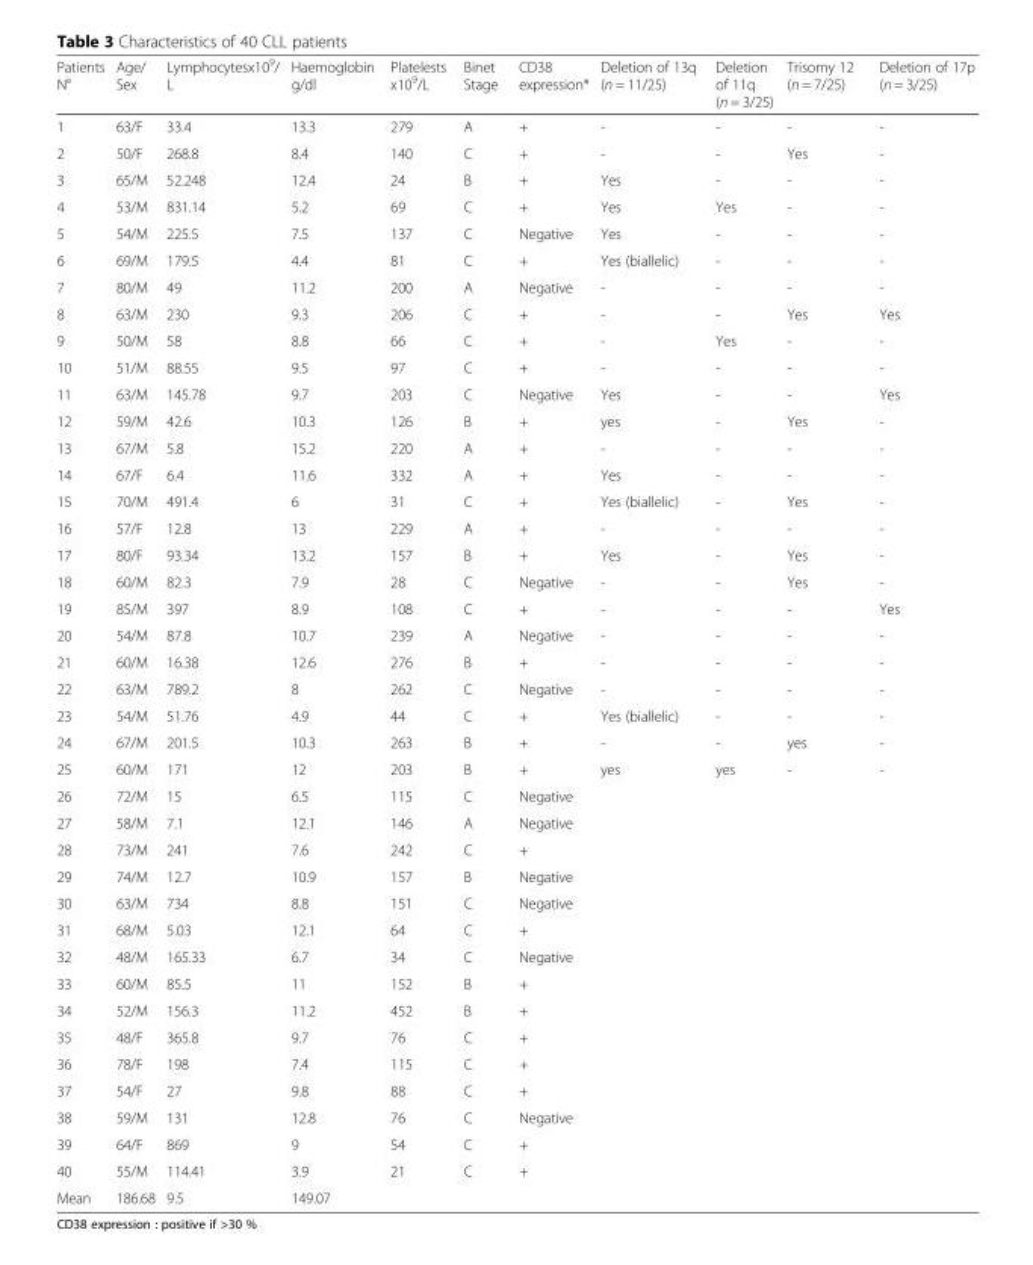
<table><thead><tr><td>Patients N°</td><td>Age/ Sex</td><td>Lymphocytesx10<sup>9</sup>/ L</td><td>Haemoglobin g/dl</td><td>Platelests x10<sup>9</sup>/L</td><td>Binet Stage</td><td>CD38 expression*</td><td>Deletion of 13q (n = 11/25)</td><td>Deletion of 11q (n = 3/25)</td><td>Trisomy 12 (n = 7/25)</td><td>Deletion of 17p (n = 3/25)</td></tr></thead><tbody><tr><td>1</td><td>63/F</td><td>33.4</td><td>13.3</td><td>279</td><td>A</td><td>+</td><td>-</td><td>-</td><td>-</td><td>-</td></tr><tr><td>2</td><td>50/F</td><td>268.8</td><td>8.4</td><td>140</td><td>C</td><td>+</td><td>-</td><td>-</td><td>Yes</td><td>-</td></tr><tr><td>3</td><td>65/M</td><td>52.248</td><td>12.4</td><td>24</td><td>B</td><td>+</td><td>Yes</td><td>-</td><td>-</td><td>-</td></tr><tr><td>4</td><td>53/M</td><td>831.14</td><td>5.2</td><td>69</td><td>C</td><td>+</td><td>Yes</td><td>Yes</td><td>-</td><td>-</td></tr><tr><td>5</td><td>54/M</td><td>225.5</td><td>7.5</td><td>137</td><td>C</td><td>Negative</td><td>Yes</td><td>-</td><td>-</td><td>-</td></tr><tr><td>6</td><td>69/M</td><td>179.5</td><td>4.4</td><td>81</td><td>C</td><td>+</td><td>Yes (biallelic)</td><td>-</td><td>-</td><td>-</td></tr><tr><td>7</td><td>80/M</td><td>49</td><td>11.2</td><td>200</td><td>A</td><td>Negative</td><td>-</td><td>-</td><td>-</td><td>-</td></tr><tr><td>8</td><td>63/M</td><td>230</td><td>9.3</td><td>206</td><td>C</td><td>+</td><td>-</td><td>-</td><td>Yes</td><td>Yes</td></tr><tr><td>9</td><td>50/M</td><td>58</td><td>8.8</td><td>66</td><td>C</td><td>+</td><td>-</td><td>Yes</td><td>-</td><td>-</td></tr><tr><td>10</td><td>51/M</td><td>88.55</td><td>9.5</td><td>97</td><td>C</td><td>+</td><td>-</td><td>-</td><td>-</td><td>-</td></tr><tr><td>11</td><td>63/M</td><td>145.78</td><td>9.7</td><td>203</td><td>C</td><td>Negative</td><td>Yes</td><td>-</td><td>-</td><td>Yes</td></tr><tr><td>12</td><td>59/M</td><td>42.6</td><td>10.3</td><td>126</td><td>B</td><td>+</td><td>yes</td><td>-</td><td>Yes</td><td>-</td></tr><tr><td>13</td><td>67/M</td><td>5.8</td><td>15.2</td><td>220</td><td>A</td><td>+</td><td>-</td><td>-</td><td>-</td><td>-</td></tr><tr><td>14</td><td>67/F</td><td>6.4</td><td>11.6</td><td>332</td><td>A</td><td>+</td><td>Yes</td><td>-</td><td>-</td><td>-</td></tr><tr><td>15</td><td>70/M</td><td>491.4</td><td>6</td><td>31</td><td>C</td><td>+</td><td>Yes (biallelic)</td><td>-</td><td>Yes</td><td>-</td></tr><tr><td>16</td><td>57/F</td><td>12.8</td><td>13</td><td>229</td><td>A</td><td>+</td><td>-</td><td>-</td><td>-</td><td>-</td></tr><tr><td>17</td><td>80/F</td><td>93.34</td><td>13.2</td><td>157</td><td>B</td><td>+</td><td>Yes</td><td>-</td><td>Yes</td><td>-</td></tr><tr><td>18</td><td>60/M</td><td>82.3</td><td>7.9</td><td>28</td><td>C</td><td>Negative</td><td>-</td><td>-</td><td>Yes</td><td>-</td></tr><tr><td>19</td><td>85/M</td><td>397</td><td>8.9</td><td>108</td><td>C</td><td>+</td><td>-</td><td>-</td><td>-</td><td>Yes</td></tr><tr><td>20</td><td>54/M</td><td>87.8</td><td>10.7</td><td>239</td><td>A</td><td>Negative</td><td>-</td><td>-</td><td>-</td><td>-</td></tr><tr><td>21</td><td>60/M</td><td>16.38</td><td>12.6</td><td>276</td><td>B</td><td>+</td><td>-</td><td>-</td><td>-</td><td>-</td></tr><tr><td>22</td><td>63/M</td><td>789.2</td><td>8</td><td>262</td><td>C</td><td>Negative</td><td>-</td><td>-</td><td>-</td><td>-</td></tr><tr><td>23</td><td>54/M</td><td>51.76</td><td>4.9</td><td>44</td><td>C</td><td>+</td><td>Yes (biallelic)</td><td>-</td><td>-</td><td>-</td></tr><tr><td>24</td><td>67/M</td><td>201.5</td><td>10.3</td><td>263</td><td>B</td><td>+</td><td>-</td><td>-</td><td>yes</td><td>-</td></tr><tr><td>25</td><td>60/M</td><td>171</td><td>12</td><td>203</td><td>B</td><td>+</td><td>yes</td><td>yes</td><td>-</td><td>-</td></tr><tr><td>26</td><td>72/M</td><td>15</td><td>6.5</td><td>115</td><td>C</td><td>Negative</td><td></td><td></td><td></td><td></td></tr><tr><td>27</td><td>58/M</td><td>7.1</td><td>12.1</td><td>146</td><td>A</td><td>Negative</td><td></td><td></td><td></td><td></td></tr><tr><td>28</td><td>73/M</td><td>241</td><td>7.6</td><td>242</td><td>C</td><td>+</td><td></td><td></td><td></td><td></td></tr><tr><td>29</td><td>74/M</td><td>12.7</td><td>10.9</td><td>157</td><td>B</td><td>Negative</td><td></td><td></td><td></td><td></td></tr><tr><td>30</td><td>63/M</td><td>734</td><td>8.8</td><td>151</td><td>C</td><td>Negative</td><td></td><td></td><td></td><td></td></tr><tr><td>31</td><td>68/M</td><td>5.03</td><td>12.1</td><td>64</td><td>C</td><td>+</td><td></td><td></td><td></td><td></td></tr><tr><td>32</td><td>48/M</td><td>165.33</td><td>6.7</td><td>34</td><td>C</td><td>Negative</td><td></td><td></td><td></td><td></td></tr><tr><td>33</td><td>60/M</td><td>85.5</td><td>11</td><td>152</td><td>B</td><td>+</td><td></td><td></td><td></td><td></td></tr><tr><td>34</td><td>52/M</td><td>156.3</td><td>11.2</td><td>452</td><td>B</td><td>+</td><td></td><td></td><td></td><td></td></tr><tr><td>35</td><td>48/F</td><td>365.8</td><td>9.7</td><td>76</td><td>C</td><td>+</td><td></td><td></td><td></td><td></td></tr><tr><td>36</td><td>78/F</td><td>198</td><td>7.4</td><td>115</td><td>C</td><td>+</td><td></td><td></td><td></td><td></td></tr><tr><td>37</td><td>54/F</td><td>27</td><td>9.8</td><td>88</td><td>C</td><td>+</td><td></td><td></td><td></td><td></td></tr><tr><td>38</td><td>59/M</td><td>131</td><td>12.8</td><td>76</td><td>C</td><td>Negative</td><td></td><td></td><td></td><td></td></tr><tr><td>39</td><td>64/F</td><td>869</td><td>9</td><td>54</td><td>C</td><td>+</td><td></td><td></td><td></td><td></td></tr><tr><td>40</td><td>55/M</td><td>114.41</td><td>3.9</td><td>21</td><td>C</td><td>+</td><td></td><td></td><td></td><td></td></tr><tr><td>Mean</td><td>186.68</td><td>9.5</td><td>149.07</td><td></td><td></td><td></td><td></td><td></td><td></td><td></td></tr></tbody></table>